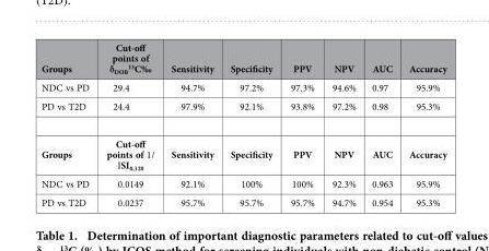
<table><thead><tr><td>Groups</td><td>Cut-off points of δ<sub>DOB</sub> <sup>13</sup>C‰</td><td>Sensitivity</td><td>Specificity</td><td>PPV</td><td>NPV</td><td>AUC</td><td>Accuracy</td></tr></thead><tbody><tr><td>NDC vs PD</td><td>29.4</td><td>94.7%</td><td>97.2%</td><td>97.3%</td><td>94.6%</td><td>0.97</td><td>95.9%</td></tr><tr><td>PD vs T2D</td><td>24.4</td><td>97.9%</td><td>92.1%</td><td>93.8%</td><td>97.2%</td><td>0.98</td><td>95.3%</td></tr><tr><td>Groups</td><td>Cut-off points of 1/ ΙSI<sub>0,120</sub></td><td>Sensitivity</td><td>Specificity</td><td>PPV</td><td>NPV</td><td>AUC</td><td>Accuracy</td></tr><tr><td>NDC vs PD</td><td>0.0149</td><td>92.1%</td><td>100%</td><td>100%</td><td>92.3%</td><td>0.963</td><td>95.9%</td></tr><tr><td>PD vs T2D</td><td>0.0237</td><td>95.7%</td><td>95.7%</td><td>95.7%</td><td>94.7%</td><td>0.954</td><td>95.3%</td></tr></tbody></table>